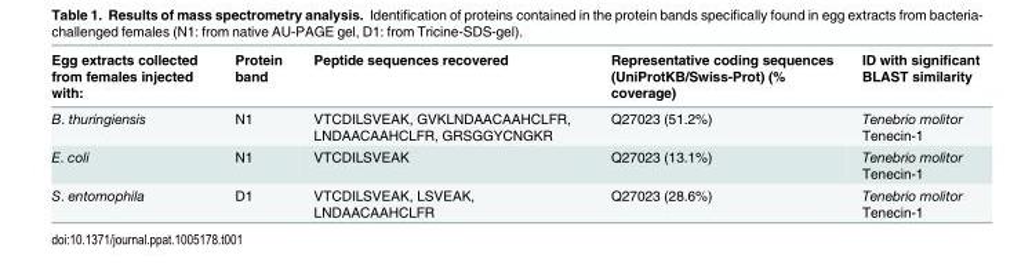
<table><thead><tr><td>Egg extracts collected from females injected with:</td><td>Protein band</td><td>Peptide sequences recovered</td><td>Representative coding sequences (UniProtKB/Swiss-Prot) (% coverage)</td><td>ID with significant BLAST similarity</td></tr></thead><tbody><tr><td>B. thuringiensis</td><td>N1</td><td>VTCDILSVEAK, GVKLNDAACAAHCLFR, LNDAACAAHCLFR, GRSGGYCNGKR</td><td>Q27023 (51.2%)</td><td>Tenebrio molitor Tenecin-1</td></tr><tr><td>E. coli</td><td>N1</td><td>VTCDILSVEAK</td><td>Q27023 (13.1%)</td><td>Tenebrio molitor Tenecin-1</td></tr><tr><td>S. entomophila</td><td>D1</td><td>VTCDILSVEAK, LSVEAK, LNDAACAAHCLFR</td><td>Q27023 (28.6%)</td><td>Tenebrio molitor Tenecin-1</td></tr></tbody></table>